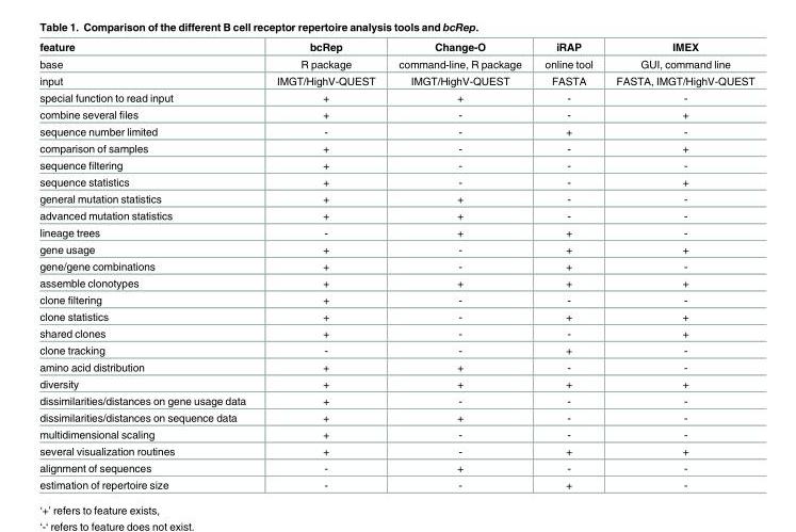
<table><thead><tr><td>feature</td><td>bcRep</td><td>Change-O</td><td>iRAP</td><td>IMEX</td></tr></thead><tbody><tr><td>base</td><td>R package</td><td>command-line, R package</td><td>online tool</td><td>GUI, command line</td></tr><tr><td>input</td><td>IMGT/HighV-QUEST</td><td>IMGT/HighV-QUEST</td><td>FASTA</td><td>FASTA, IMGT/HighV-QUEST</td></tr><tr><td>special function to read input</td><td>+</td><td>+</td><td>-</td><td>-</td></tr><tr><td>combine several files</td><td>+</td><td>-</td><td>-</td><td>+</td></tr><tr><td>sequence number limited</td><td>-</td><td>-</td><td>+</td><td>-</td></tr><tr><td>comparison of samples</td><td>+</td><td>-</td><td>-</td><td>+</td></tr><tr><td>sequence filtering</td><td>+</td><td>-</td><td>-</td><td>-</td></tr><tr><td>sequence statistics</td><td>+</td><td>-</td><td>-</td><td>+</td></tr><tr><td>general mutation statistics</td><td>+</td><td>+</td><td>-</td><td>-</td></tr><tr><td>advanced mutation statistics</td><td>+</td><td>+</td><td>-</td><td>-</td></tr><tr><td>lineage trees</td><td>-</td><td>+</td><td>+</td><td>-</td></tr><tr><td>gene usage</td><td>+</td><td>-</td><td>+</td><td>+</td></tr><tr><td>gene/gene combinations</td><td>+</td><td>-</td><td>+</td><td>-</td></tr><tr><td>assemble clonotypes</td><td>+</td><td>+</td><td>+</td><td>+</td></tr><tr><td>clone filtering</td><td>+</td><td>-</td><td>-</td><td>-</td></tr><tr><td>clone statistics</td><td>+</td><td>-</td><td>+</td><td>+</td></tr><tr><td>shared clones</td><td>+</td><td>-</td><td>-</td><td>+</td></tr><tr><td>clone tracking</td><td>-</td><td>-</td><td>+</td><td>-</td></tr><tr><td>amino acid distribution</td><td>+</td><td>+</td><td>-</td><td>-</td></tr><tr><td>diversity</td><td>+</td><td>+</td><td>+</td><td>+</td></tr><tr><td>dissimilarities/distances on gene usage data</td><td>+</td><td>-</td><td>-</td><td>-</td></tr><tr><td>dissimilarities/distances on sequence data</td><td>+</td><td>+</td><td>-</td><td>-</td></tr><tr><td>multidimensional scaling</td><td>+</td><td>-</td><td>-</td><td>-</td></tr><tr><td>several visualization routines</td><td>+</td><td>-</td><td>+</td><td>+</td></tr><tr><td>alignment of sequences</td><td>-</td><td>+</td><td>-</td><td>-</td></tr><tr><td>estimation of repertoire size</td><td>-</td><td>-</td><td>+</td><td>-</td></tr></tbody></table>